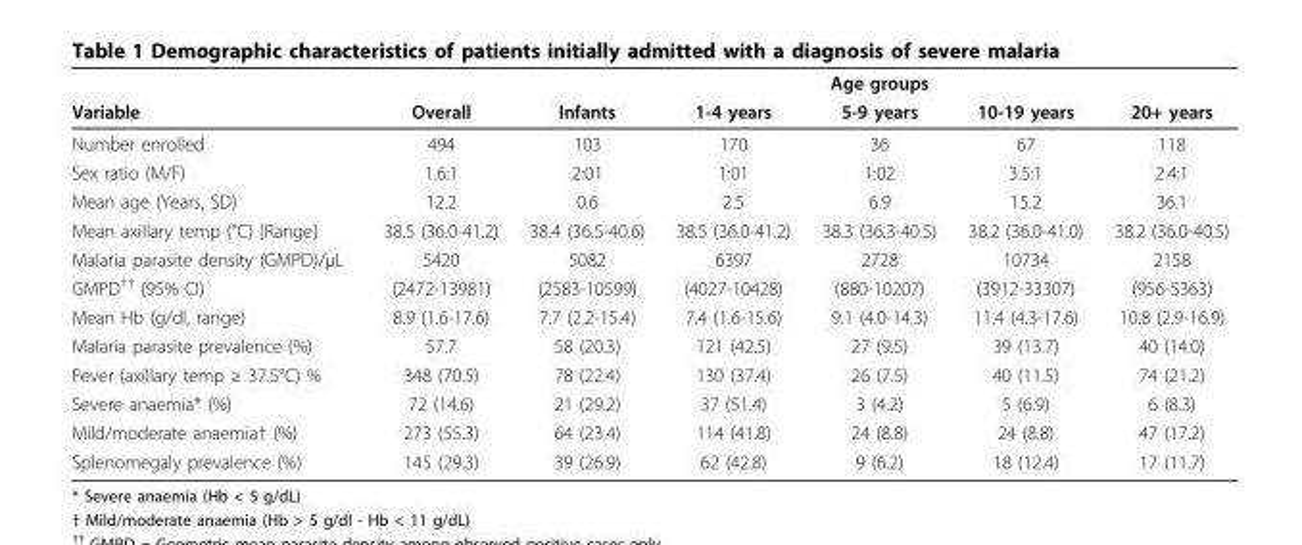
<table><thead><tr><td rowspan="2">Variable</td><td rowspan="2">Overall</td><td colspan="5">Age groups</td></tr><tr><td>Infants</td><td>1-4 years</td><td>5-9 years</td><td>10-19 years</td><td>20+ years</td></tr></thead><tbody><tr><td>Number enrolled</td><td>494</td><td>103</td><td>170</td><td>36</td><td>67</td><td>118</td></tr><tr><td>Sex ratio (M/F)</td><td>1.6:1</td><td>2:01</td><td>1:01</td><td>1:02</td><td>3.5:1</td><td>2.4:1</td></tr><tr><td>Mean age (Years, SD)</td><td>12.2</td><td>0.6</td><td>2.5</td><td>6.9</td><td>15.2</td><td>36.1</td></tr><tr><td>Mean axillary temp (°C) [Range]</td><td>38.5 (36.0-41.2)</td><td>38.4 (36.5-40.6)</td><td>38.5 (36.0-41.2)</td><td>38.3 (36.3-40.5)</td><td>38.2 (36.0-41.0)</td><td>38.2 (36.0-40.5)</td></tr><tr><td>Malaria parasite density (GMPD)/μL</td><td>5420</td><td>5082</td><td>6397</td><td>2728</td><td>10734</td><td>2158</td></tr><tr><td>GMPD<sup>††</sup> (95% CI)</td><td>(2472-13981)</td><td>(2583-10599)</td><td>(4027-10428)</td><td>(880-10207)</td><td>(3912-33307)</td><td>(956-5363)</td></tr><tr><td>Mean Hb (g/dl, range)</td><td>8.9 (1.6-17.6)</td><td>7.7 (2.2-15.4)</td><td>7.4 (1.6-15.6)</td><td>9.1 (4.0-14.3)</td><td>11.4 (4.3-17.6)</td><td>10.8 (2.9-16.9)</td></tr><tr><td>Malaria parasite prevalence (%)</td><td>57.7</td><td>58 (20.3)</td><td>121 (42.5)</td><td>27 (9.5)</td><td>39 (13.7)</td><td>40 (14.0)</td></tr><tr><td>Fever (axillary temp ≥ 37.5°C) %</td><td>348 (70.5)</td><td>78 (22.4)</td><td>130 (37.4)</td><td>26 (7.5)</td><td>40 (11.5)</td><td>74 (21.2)</td></tr><tr><td>Severe anaemia* (%)</td><td>72 (14.6)</td><td>21 (29.2)</td><td>37 (51.4)</td><td>3 (4.2)</td><td>5 (6.9)</td><td>6 (8.3)</td></tr><tr><td>Mild/moderate anaemia† (%)</td><td>273 (55.3)</td><td>64 (23.4)</td><td>114 (41.8)</td><td>24 (8.8)</td><td>24 (8.8)</td><td>47 (17.2)</td></tr><tr><td>Splenomegaly prevalence (%)</td><td>145 (29.3)</td><td>39 (26.9)</td><td>62 (42.8)</td><td>9 (6.2)</td><td>18 (12.4)</td><td>17 (11.7)</td></tr></tbody></table>